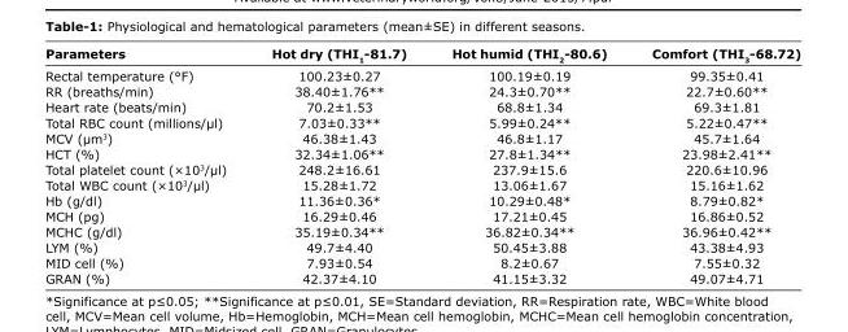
<table><thead><tr><td>Parameters</td><td>Hot dry (THI<sub>1</sub>-81.7)</td><td>Hot humid (THI<sub>2</sub>-80.6)</td><td>Comfort (THI<sub>3</sub>-68.72)</td></tr></thead><tbody><tr><td>Rectal temperature (°F)</td><td>100.23±0.27</td><td>100.19±0.19</td><td>99.35±0.41</td></tr><tr><td>RR (breaths/min)</td><td>38.40±1.76**</td><td>24.3±0.70**</td><td>22.7±0.60**</td></tr><tr><td>Heart rate (beats/min)</td><td>70.2±1.53</td><td>68.8±1.34</td><td>69.3±1.81</td></tr><tr><td>Total RBC count (millions/μl)</td><td>7.03±0.33**</td><td>5.99±0.24**</td><td>5.22±0.47**</td></tr><tr><td>MCV (μm<sup>3</sup>)</td><td>46.38±1.43</td><td>46.8±1.17</td><td>45.7±1.64</td></tr><tr><td>HCT (%)</td><td>32.34±1.06**</td><td>27.8±1.34**</td><td>23.98±2.41**</td></tr><tr><td>Total platelet count (×10<sup>3</sup>/μl)</td><td>248.2±16.61</td><td>237.9±15.6</td><td>220.6±10.96</td></tr><tr><td>Total WBC count (×10<sup>3</sup>/μl)</td><td>15.28±1.72</td><td>13.06±1.67</td><td>15.16±1.62</td></tr><tr><td>Hb (g/dl)</td><td>11.36±0.36*</td><td>10.29±0.48*</td><td>8.79±0.82*</td></tr><tr><td>MCH (pg)</td><td>16.29±0.46</td><td>17.21±0.45</td><td>16.86±0.52</td></tr><tr><td>MCHC (g/dl)</td><td>35.19±0.34**</td><td>36.82±0.34**</td><td>36.96±0.42**</td></tr><tr><td>LYM (%)</td><td>49.7±4.40</td><td>50.45±3.88</td><td>43.38±4.93</td></tr><tr><td>MID cell (%)</td><td>7.93±0.54</td><td>8.2±0.67</td><td>7.55±0.32</td></tr><tr><td>GRAN (%)</td><td>42.37±4.10</td><td>41.15±3.32</td><td>49.07±4.71</td></tr></tbody></table>